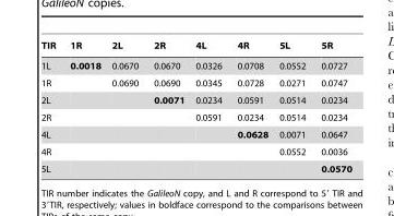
<table><thead><tr><td>TIR</td><td>1R</td><td>2L</td><td>2R</td><td>4L</td><td>4R</td><td>5L</td><td>5R</td></tr></thead><tbody><tr><td>1L</td><td>0.0018</td><td>0.0670</td><td>0.0670</td><td>0.0326</td><td>0.0708</td><td>0.0552</td><td>0.0727</td></tr><tr><td>1R</td><td></td><td>0.0690</td><td>0.0690</td><td>0.0345</td><td>0.0728</td><td>0.0271</td><td>0.0747</td></tr><tr><td>2L</td><td></td><td></td><td>0.0071</td><td>0.0234</td><td>0.0591</td><td>0.0514</td><td>0.0234</td></tr><tr><td>2R</td><td></td><td></td><td></td><td>0.0591</td><td>0.0234</td><td>0.0514</td><td>0.0234</td></tr><tr><td>4L</td><td></td><td></td><td></td><td></td><td>0.0628</td><td>0.0071</td><td>0.0647</td></tr><tr><td>4R</td><td></td><td></td><td></td><td></td><td></td><td>0.0552</td><td>0.0036</td></tr><tr><td>5L</td><td></td><td></td><td></td><td></td><td></td><td></td><td>0.0570</td></tr></tbody></table>